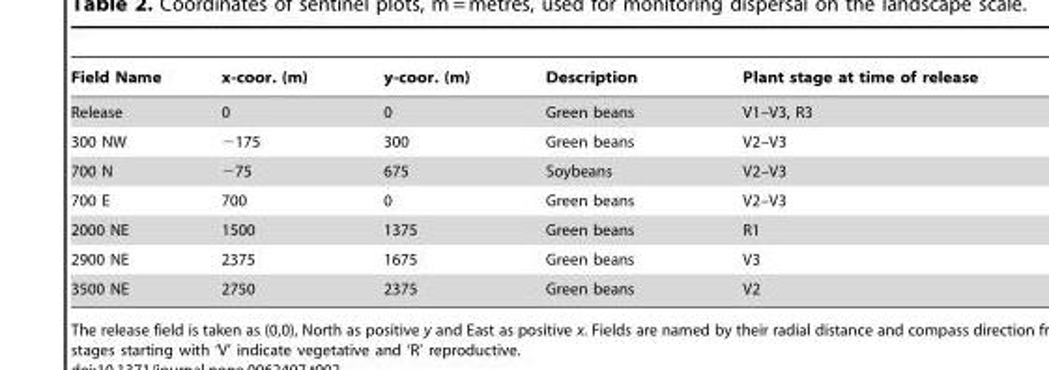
<table><thead><tr><td>Field Name</td><td>x-coor. (m)</td><td>y-coor. (m)</td><td>Description</td><td>Plant stage at time of release</td></tr></thead><tbody><tr><td>Release</td><td>0</td><td>0</td><td>Green beans</td><td>V1–V3, R3</td></tr><tr><td>300 NW</td><td>−175</td><td>300</td><td>Green beans</td><td>V2–V3</td></tr><tr><td>700 N</td><td>−75</td><td>675</td><td>Soybeans</td><td>V2–V3</td></tr><tr><td>700 E</td><td>700</td><td>0</td><td>Green beans</td><td>V2–V3</td></tr><tr><td>2000 NE</td><td>1500</td><td>1375</td><td>Green beans</td><td>R1</td></tr><tr><td>2900 NE</td><td>2375</td><td>1675</td><td>Green beans</td><td>V3</td></tr><tr><td>3500 NE</td><td>2750</td><td>2375</td><td>Green beans</td><td>V2</td></tr></tbody></table>